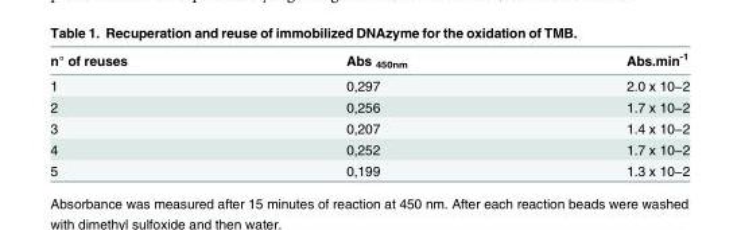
<table><thead><tr><td>n° of reuses</td><td>Abs <sub>450nm</sub></td><td>Abs.min<sup>-1</sup></td></tr></thead><tbody><tr><td>1</td><td>0,297</td><td>2.0 x 10−2</td></tr><tr><td>2</td><td>0,256</td><td>1.7 x 10−2</td></tr><tr><td>3</td><td>0,207</td><td>1.4 x 10−2</td></tr><tr><td>4</td><td>0,252</td><td>1.7 x 10−2</td></tr><tr><td>5</td><td>0,199</td><td>1.3 x 10−2</td></tr></tbody></table>